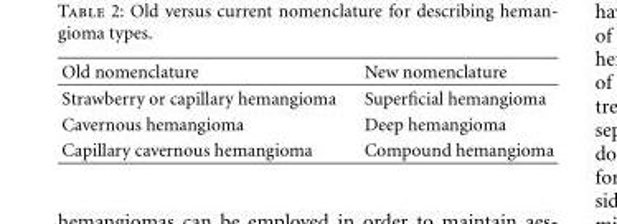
<table><thead><tr><td>Old nomenclature</td><td>New nomenclature</td></tr></thead><tbody><tr><td>Strawberry or capillary hemangioma</td><td>Superficial hemangioma</td></tr><tr><td>Cavernous hemangioma</td><td>Deep hemangioma</td></tr><tr><td>Capillary cavernous hemangioma</td><td>Compound hemangioma</td></tr></tbody></table>